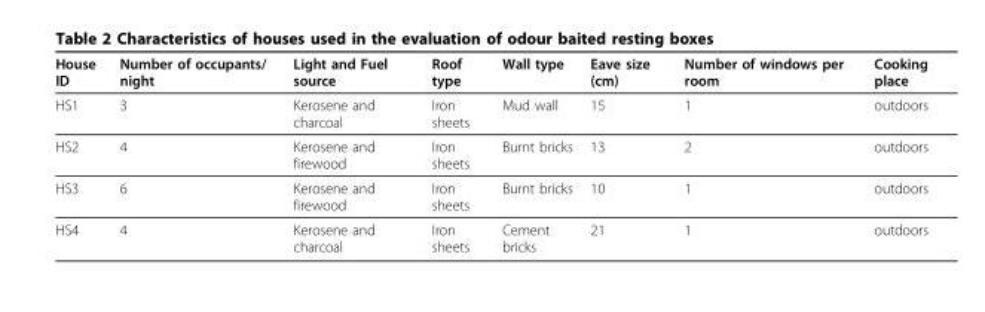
<table><thead><tr><td>House ID</td><td>Number of occupants/ night</td><td>Light and Fuel source</td><td>Roof type</td><td>Wall type</td><td>Eave size (cm)</td><td>Number of windows per room</td><td>Cooking place</td></tr></thead><tbody><tr><td>HS1</td><td>3</td><td>Kerosene and charcoal</td><td>Iron sheets</td><td>Mud wall</td><td>15</td><td>1</td><td>outdoors</td></tr><tr><td>HS2</td><td>4</td><td>Kerosene and firewood</td><td>Iron sheets</td><td>Burnt bricks</td><td>13</td><td>2</td><td>outdoors</td></tr><tr><td>HS3</td><td>6</td><td>Kerosene and firewood</td><td>Iron sheets</td><td>Burnt bricks</td><td>10</td><td>1</td><td>outdoors</td></tr><tr><td>HS4</td><td>4</td><td>Kerosene and charcoal</td><td>Iron sheets</td><td>Cement bricks</td><td>21</td><td>1</td><td>outdoors</td></tr></tbody></table>